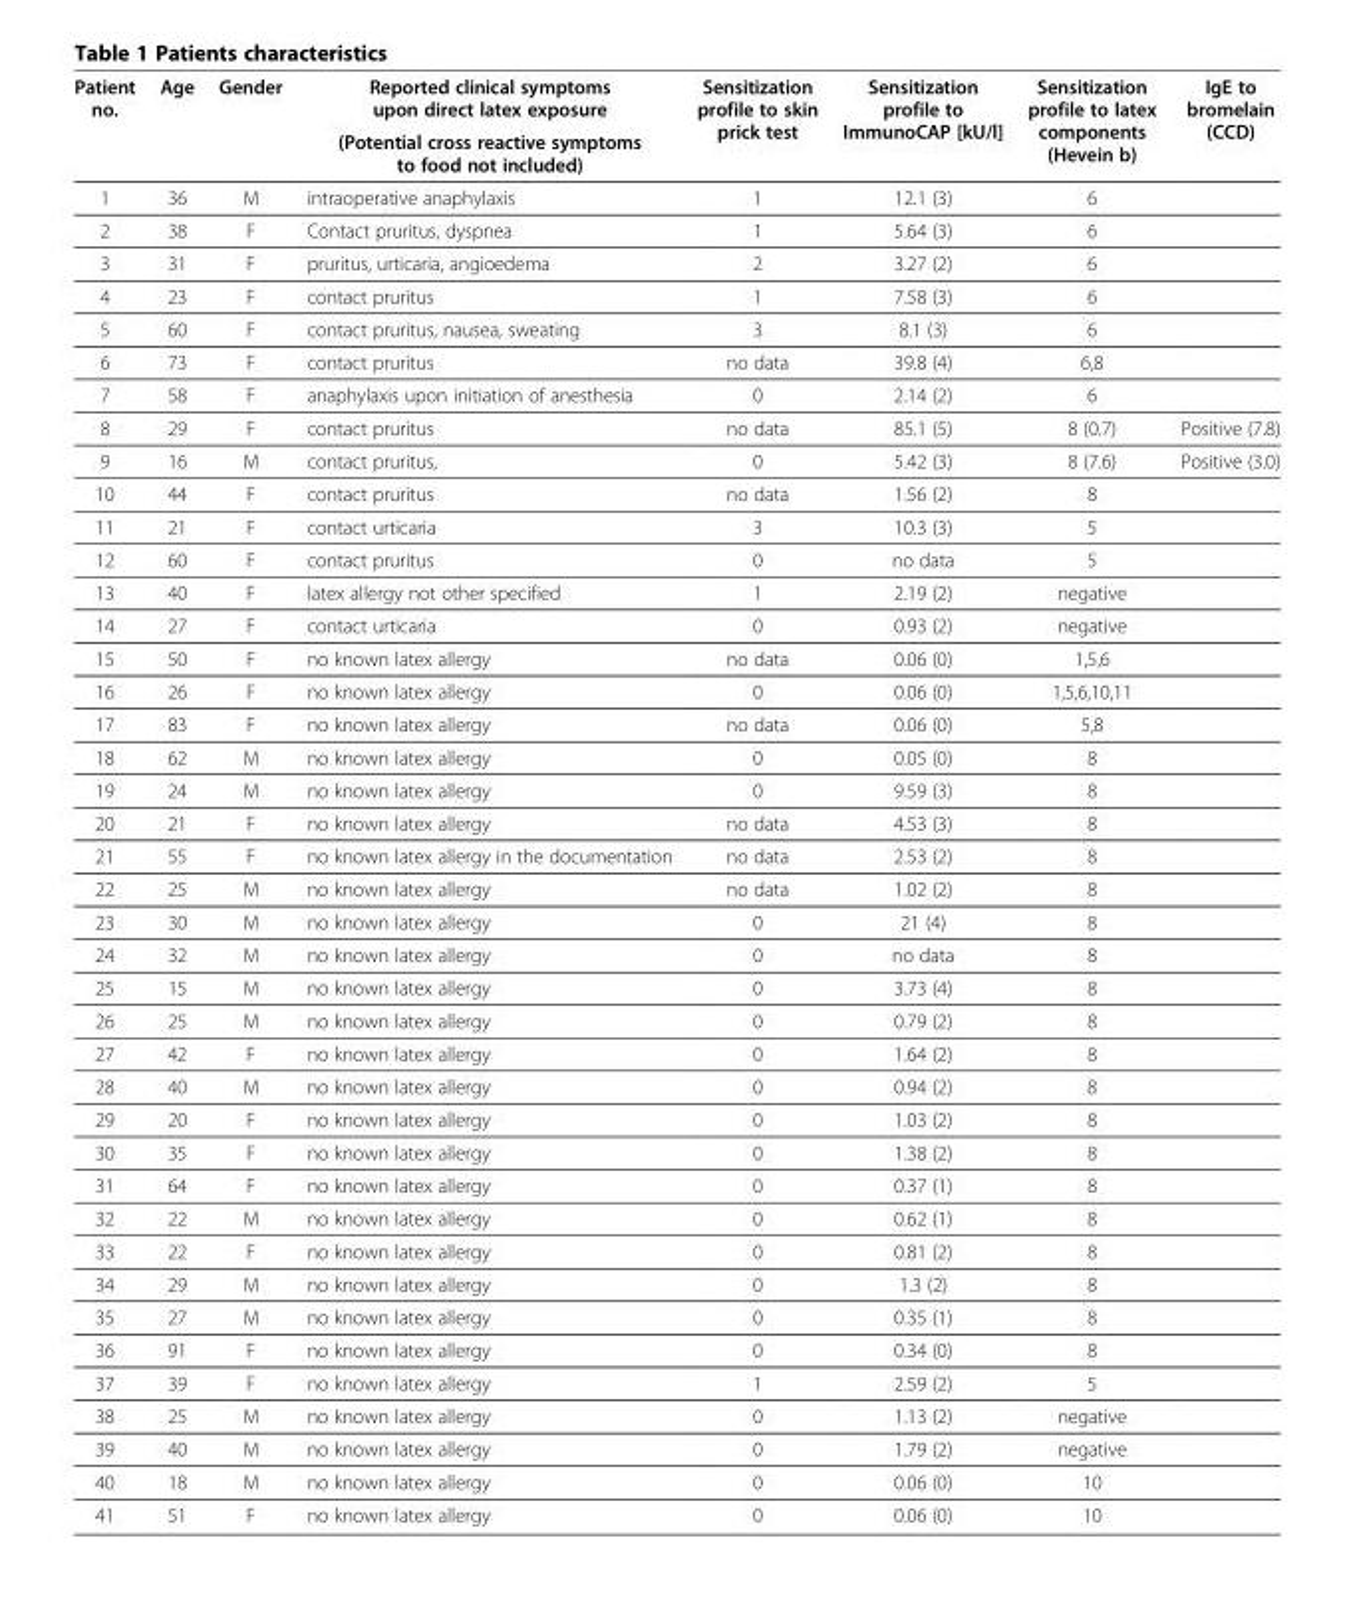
<table><thead><tr><td rowspan="2">Patient no.</td><td rowspan="2">Age</td><td rowspan="2">Gender</td><td rowspan="2">Reported clinical symptoms upon direct latex exposure (Potential cross reactive symptoms to food not included)</td><td rowspan="2">Sensitization profile to skin prick test</td><td rowspan="2">Sensitization profile to ImmunoCAP [kU/l]</td><td rowspan="2">Sensitization profile to latex components (Hevein b)</td><td rowspan="2">IgE to bromelain (CCD)</td></tr><tr></tr></thead><tbody><tr><td>1</td><td>36</td><td>M</td><td>intraoperative anaphylaxis</td><td>1</td><td>12.1 (3)</td><td>6</td><td></td></tr><tr><td>2</td><td>38</td><td>F</td><td>Contact pruritus, dyspnea</td><td>1</td><td>5.64 (3)</td><td>6</td><td></td></tr><tr><td>3</td><td>31</td><td>F</td><td>pruritus, urticaria, angioedema</td><td>2</td><td>3.27 (2)</td><td>6</td><td></td></tr><tr><td>4</td><td>23</td><td>F</td><td>contact pruritus</td><td>1</td><td>7.58 (3)</td><td>6</td><td></td></tr><tr><td>5</td><td>60</td><td>F</td><td>contact pruritus, nausea, sweating</td><td>3</td><td>8.1 (3)</td><td>6</td><td></td></tr><tr><td>6</td><td>73</td><td>F</td><td>contact pruritus</td><td>no data</td><td>39.8 (4)</td><td>6,8</td><td></td></tr><tr><td>7</td><td>58</td><td>F</td><td>anaphylaxis upon initiation of anesthesia</td><td>0</td><td>2.14 (2)</td><td>6</td><td></td></tr><tr><td>8</td><td>29</td><td>F</td><td>contact pruritus</td><td>no data</td><td>85.1 (5)</td><td>8 (0.7)</td><td>Positive (7.8)</td></tr><tr><td>9</td><td>16</td><td>M</td><td>contact pruritus,</td><td>0</td><td>5.42 (3)</td><td>8 (7.6)</td><td>Positive (3.0)</td></tr><tr><td>10</td><td>44</td><td>F</td><td>contact pruritus</td><td>no data</td><td>1.56 (2)</td><td>8</td><td></td></tr><tr><td>11</td><td>21</td><td>F</td><td>contact urticaria</td><td>3</td><td>10.3 (3)</td><td>5</td><td></td></tr><tr><td>12</td><td>60</td><td>F</td><td>contact pruritus</td><td>0</td><td>no data</td><td>5</td><td></td></tr><tr><td>13</td><td>40</td><td>F</td><td>latex allergy not other specified</td><td>1</td><td>2.19 (2)</td><td>negative</td><td></td></tr><tr><td>14</td><td>27</td><td>F</td><td>contact urticaria</td><td>0</td><td>0.93 (2)</td><td>negative</td><td></td></tr><tr><td>15</td><td>50</td><td>F</td><td>no known latex allergy</td><td>no data</td><td>0.06 (0)</td><td>1,5,6</td><td></td></tr><tr><td>16</td><td>26</td><td>F</td><td>no known latex allergy</td><td>0</td><td>0.06 (0)</td><td>1,5,6,10,11</td><td></td></tr><tr><td>17</td><td>83</td><td>F</td><td>no known latex allergy</td><td>no data</td><td>0.06 (0)</td><td>5,8</td><td></td></tr><tr><td>18</td><td>62</td><td>M</td><td>no known latex allergy</td><td>0</td><td>0.05 (0)</td><td>8</td><td></td></tr><tr><td>19</td><td>24</td><td>M</td><td>no known latex allergy</td><td>0</td><td>9.59 (3)</td><td>8</td><td></td></tr><tr><td>20</td><td>21</td><td>F</td><td>no known latex allergy</td><td>no data</td><td>4.53 (3)</td><td>8</td><td></td></tr><tr><td>21</td><td>55</td><td>F</td><td>no known latex allergy in the documentation</td><td>no data</td><td>2.53 (2)</td><td>8</td><td></td></tr><tr><td>22</td><td>25</td><td>M</td><td>no known latex allergy</td><td>no data</td><td>1.02 (2)</td><td>8</td><td></td></tr><tr><td>23</td><td>30</td><td>M</td><td>no known latex allergy</td><td>0</td><td>21 (4)</td><td>8</td><td></td></tr><tr><td>24</td><td>32</td><td>M</td><td>no known latex allergy</td><td>0</td><td>no data</td><td>8</td><td></td></tr><tr><td>25</td><td>15</td><td>M</td><td>no known latex allergy</td><td>0</td><td>3.73 (4)</td><td>8</td><td></td></tr><tr><td>26</td><td>25</td><td>M</td><td>no known latex allergy</td><td>0</td><td>0.79 (2)</td><td>8</td><td></td></tr><tr><td>27</td><td>42</td><td>F</td><td>no known latex allergy</td><td>0</td><td>1.64 (2)</td><td>8</td><td></td></tr><tr><td>28</td><td>40</td><td>M</td><td>no known latex allergy</td><td>0</td><td>0.94 (2)</td><td>8</td><td></td></tr><tr><td>29</td><td>20</td><td>F</td><td>no known latex allergy</td><td>0</td><td>1.03 (2)</td><td>8</td><td></td></tr><tr><td>30</td><td>35</td><td>F</td><td>no known latex allergy</td><td>0</td><td>1.38 (2)</td><td>8</td><td></td></tr><tr><td>31</td><td>64</td><td>F</td><td>no known latex allergy</td><td>0</td><td>0.37 (1)</td><td>8</td><td></td></tr><tr><td>32</td><td>22</td><td>M</td><td>no known latex allergy</td><td>0</td><td>0.62 (1)</td><td>8</td><td></td></tr><tr><td>33</td><td>22</td><td>F</td><td>no known latex allergy</td><td>0</td><td>0.81 (2)</td><td>8</td><td></td></tr><tr><td>34</td><td>29</td><td>M</td><td>no known latex allergy</td><td>0</td><td>1.3 (2)</td><td>8</td><td></td></tr><tr><td>35</td><td>27</td><td>M</td><td>no known latex allergy</td><td>0</td><td>0.35 (1)</td><td>8</td><td></td></tr><tr><td>36</td><td>91</td><td>F</td><td>no known latex allergy</td><td>0</td><td>0.34 (0)</td><td>8</td><td></td></tr><tr><td>37</td><td>39</td><td>F</td><td>no known latex allergy</td><td>1</td><td>2.59 (2)</td><td>5</td><td></td></tr><tr><td>38</td><td>25</td><td>M</td><td>no known latex allergy</td><td>0</td><td>1.13 (2)</td><td>negative</td><td></td></tr><tr><td>39</td><td>40</td><td>M</td><td>no known latex allergy</td><td>0</td><td>1.79 (2)</td><td>negative</td><td></td></tr><tr><td>40</td><td>18</td><td>M</td><td>no known latex allergy</td><td>0</td><td>0.06 (0)</td><td>10</td><td></td></tr><tr><td>41</td><td>51</td><td>F</td><td>no known latex allergy</td><td>0</td><td>0.06 (0)</td><td>10</td><td></td></tr></tbody></table>